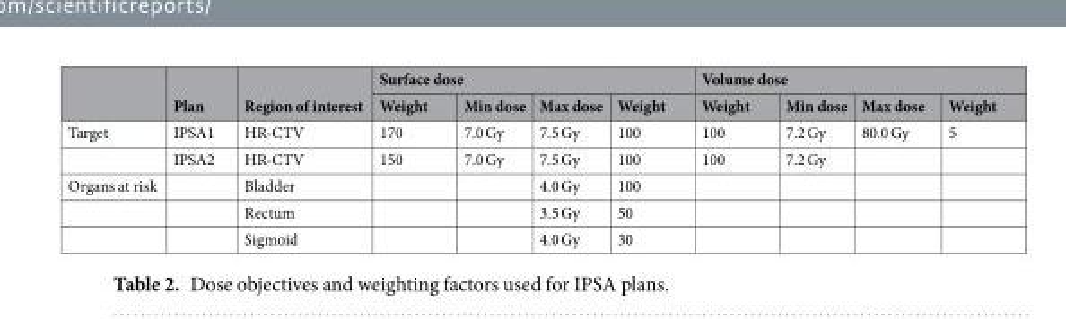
<table><thead><tr><td rowspan="2"></td><td rowspan="2">Plan</td><td rowspan="2">Region of interest</td><td colspan="4">Surface dose</td><td colspan="4">Volume dose</td></tr><tr><td>Weight</td><td>Min dose</td><td>Max dose</td><td>Weight</td><td>Weight</td><td>Min dose</td><td>Max dose</td><td>Weight</td></tr></thead><tbody><tr><td rowspan="2">Target</td><td>IPSA1</td><td>HR-CTV</td><td>170</td><td>7.0 Gy</td><td>7.5 Gy</td><td>100</td><td>100</td><td>7.2 Gy</td><td>80.0 Gy</td><td>5</td></tr><tr><td>IPSA2</td><td>HR-CTV</td><td>150</td><td>7.0 Gy</td><td>7.5 Gy</td><td>100</td><td>100</td><td>7.2 Gy</td><td></td><td></td></tr><tr><td rowspan="3">Organs at risk</td><td></td><td>Bladder</td><td></td><td></td><td>4.0 Gy</td><td>100</td><td></td><td></td><td></td><td></td></tr><tr><td></td><td>Rectum</td><td></td><td></td><td>3.5 Gy</td><td>50</td><td></td><td></td><td></td><td></td></tr><tr><td></td><td>Sigmoid</td><td></td><td></td><td>4.0 Gy</td><td>30</td><td></td><td></td><td></td><td></td></tr></tbody></table>